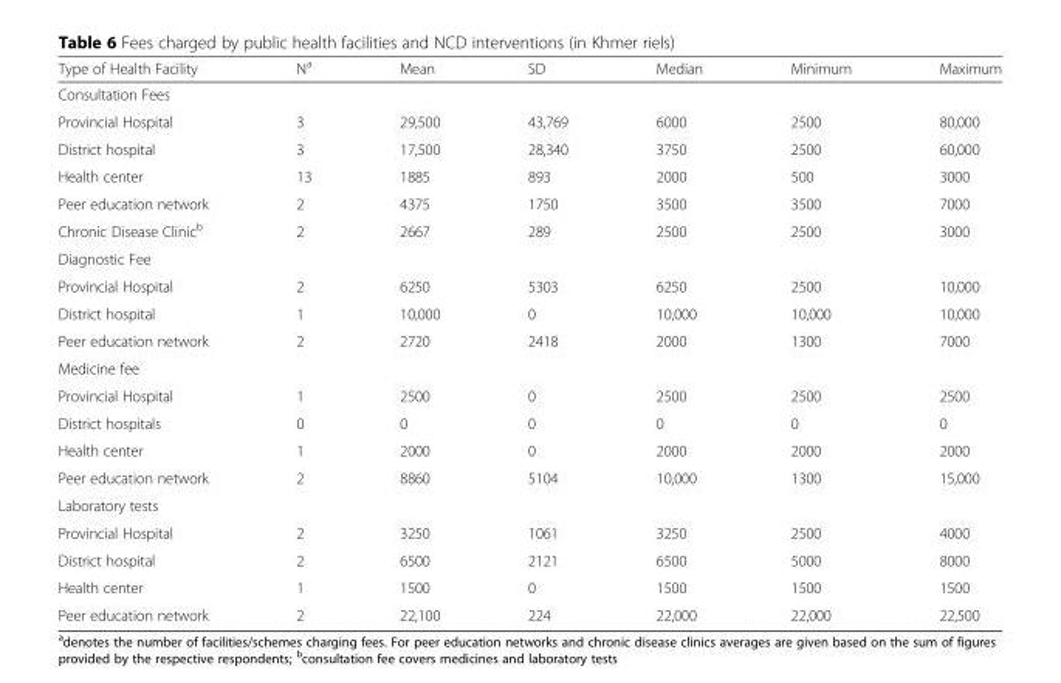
<table><thead><tr><td>Type of Health Facility</td><td>N<sup>a</sup></td><td>Mean</td><td>SD</td><td>Median</td><td>Minimum</td><td>Maximum</td></tr></thead><tbody><tr><td colspan="7">Consultation Fees</td></tr><tr><td>Provincial Hospital</td><td>3</td><td>29,500</td><td>43,769</td><td>6000</td><td>2500</td><td>80,000</td></tr><tr><td>District hospital</td><td>3</td><td>17,500</td><td>28,340</td><td>3750</td><td>2500</td><td>60,000</td></tr><tr><td>Health center</td><td>13</td><td>1885</td><td>893</td><td>2000</td><td>500</td><td>3000</td></tr><tr><td>Peer education network</td><td>2</td><td>4375</td><td>1750</td><td>3500</td><td>3500</td><td>7000</td></tr><tr><td>Chronic Disease Clinic<sup>b</sup></td><td>2</td><td>2667</td><td>289</td><td>2500</td><td>2500</td><td>3000</td></tr><tr><td colspan="7">Diagnostic Fee</td></tr><tr><td>Provincial Hospital</td><td>2</td><td>6250</td><td>5303</td><td>6250</td><td>2500</td><td>10,000</td></tr><tr><td>District hospital</td><td>1</td><td>10,000</td><td>0</td><td>10,000</td><td>10,000</td><td>10,000</td></tr><tr><td>Peer education network</td><td>2</td><td>2720</td><td>2418</td><td>2000</td><td>1300</td><td>7000</td></tr><tr><td colspan="7">Medicine fee</td></tr><tr><td>Provincial Hospital</td><td>1</td><td>2500</td><td>0</td><td>2500</td><td>2500</td><td>2500</td></tr><tr><td>District hospitals</td><td>0</td><td>0</td><td>0</td><td>0</td><td>0</td><td>0</td></tr><tr><td>Health center</td><td>1</td><td>2000</td><td>0</td><td>2000</td><td>2000</td><td>2000</td></tr><tr><td>Peer education network</td><td>2</td><td>8860</td><td>5104</td><td>10,000</td><td>1300</td><td>15,000</td></tr><tr><td colspan="7">Laboratory tests</td></tr><tr><td>Provincial Hospital</td><td>2</td><td>3250</td><td>1061</td><td>3250</td><td>2500</td><td>4000</td></tr><tr><td>District hospital</td><td>2</td><td>6500</td><td>2121</td><td>6500</td><td>5000</td><td>8000</td></tr><tr><td>Health center</td><td>1</td><td>1500</td><td>0</td><td>1500</td><td>1500</td><td>1500</td></tr><tr><td>Peer education network</td><td>2</td><td>22,100</td><td>224</td><td>22,000</td><td>22,000</td><td>22,500</td></tr></tbody></table>